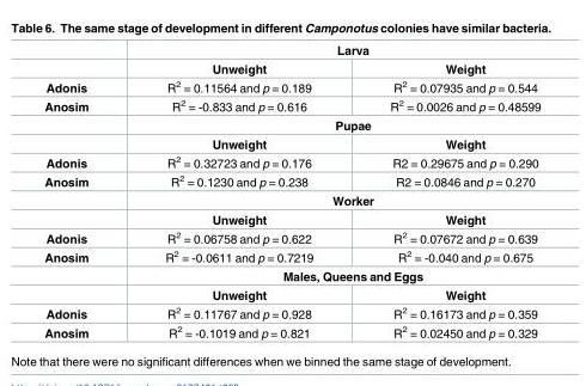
<table><thead><tr><td rowspan="2"></td><td colspan="2">Larva</td></tr><tr><td>Unweight</td><td>Weight</td></tr></thead><tbody><tr><td>Adonis</td><td>R<sup>2</sup> = 0.11564 and p = 0.189</td><td>R<sup>2</sup> = 0.07935 and p = 0.544</td></tr><tr><td rowspan="3">Anosim</td><td>R<sup>2</sup> = -0.833 and p = 0.616</td><td>R<sup>2</sup> = 0.0026 and p = 0.48599</td></tr><tr><td colspan="2">Pupae</td></tr><tr><td>Unweight</td><td>Weight</td></tr><tr><td>Adonis</td><td>R<sup>2</sup> = 0.32723 and p = 0.176</td><td>R2 = 0.29675 and p = 0.290</td></tr><tr><td rowspan="3">Anosim</td><td>R<sup>2</sup> = 0.1230 and p = 0.238</td><td>R2 = 0.0846 and p = 0.270</td></tr><tr><td colspan="2">Worker</td></tr><tr><td>Unweight</td><td>Weight</td></tr><tr><td>Adonis</td><td>R<sup>2</sup> = 0.06758 and p = 0.622</td><td>R<sup>2</sup> = 0.07672 and p = 0.639</td></tr><tr><td rowspan="3">Anosim</td><td>R<sup>2</sup> = -0.0611 and p = 0.7219</td><td>R<sup>2</sup> = -0.040 and p = 0.675</td></tr><tr><td colspan="2">Males, Queens and Eggs</td></tr><tr><td>Unweight</td><td>Weight</td></tr><tr><td>Adonis</td><td>R<sup>2</sup> = 0.11767 and p = 0.928</td><td>R<sup>2</sup> = 0.16173 and p = 0.359</td></tr><tr><td>Anosim</td><td>R<sup>2</sup> = -0.1019 and p = 0.821</td><td>R<sup>2</sup> = 0.02450 and p = 0.329</td></tr></tbody></table>